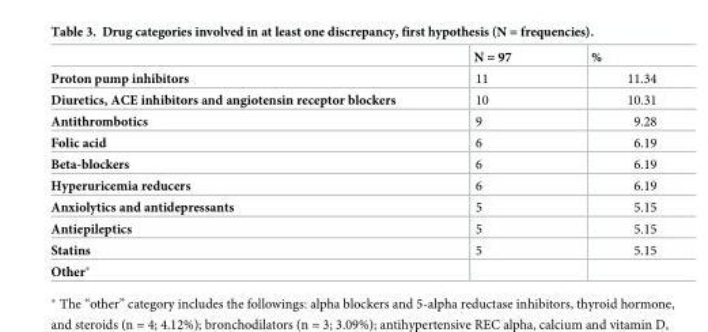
<table><thead><tr><td></td><td>N = 97</td><td>%</td></tr></thead><tbody><tr><td>Proton pump inhibitors</td><td>11</td><td>11.34</td></tr><tr><td>Diuretics, ACE inhibitors and angiotensin receptor blockers</td><td>10</td><td>10.31</td></tr><tr><td>Antithrombotics</td><td>9</td><td>9.28</td></tr><tr><td>Folic acid</td><td>6</td><td>6.19</td></tr><tr><td>Beta-blockers</td><td>6</td><td>6.19</td></tr><tr><td>Hyperuricemia reducers</td><td>6</td><td>6.19</td></tr><tr><td>Anxiolytics and antidepressants</td><td>5</td><td>5.15</td></tr><tr><td>Antiepileptics</td><td>5</td><td>5.15</td></tr><tr><td>Statins</td><td>5</td><td>5.15</td></tr><tr><td>Other*</td><td></td><td></td></tr></tbody></table>